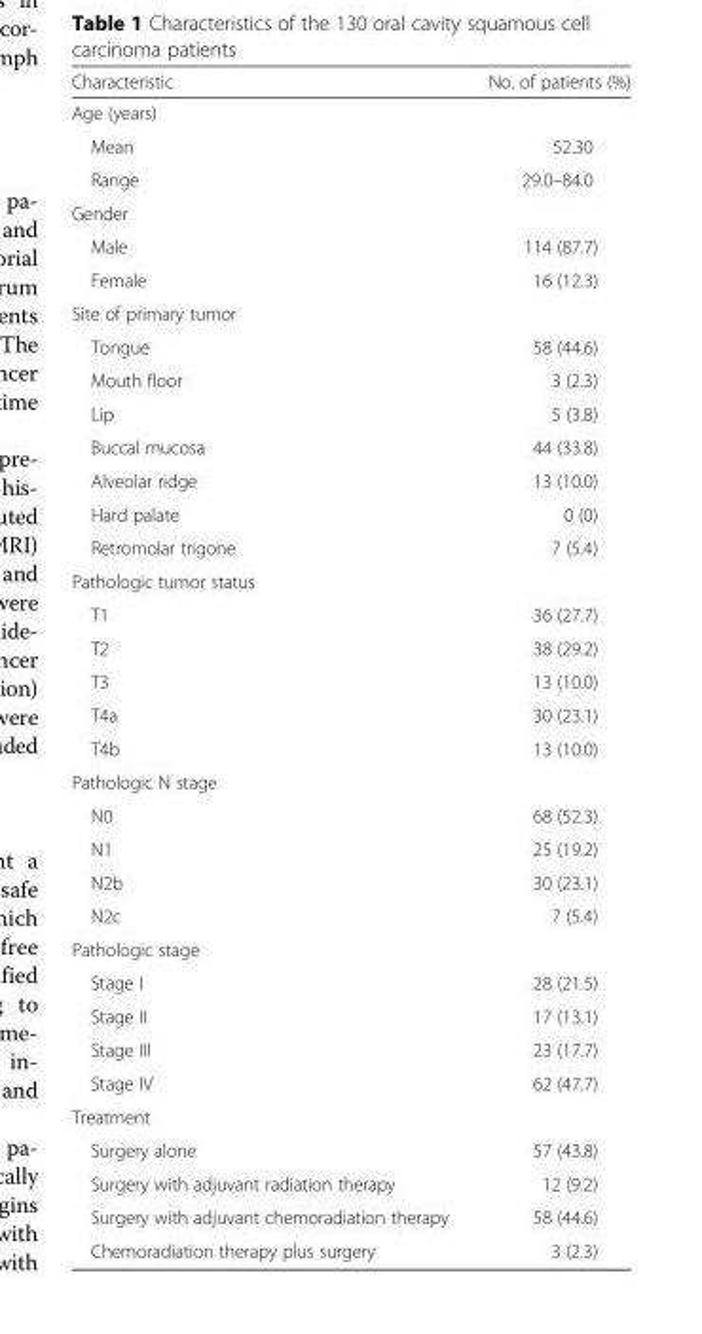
<table><thead><tr><td>Characteristic</td><td>No. of patients (%)</td></tr></thead><tbody><tr><td colspan="2">Age (years)</td></tr><tr><td>Mean</td><td>52.30</td></tr><tr><td>Range</td><td>29.0–84.0</td></tr><tr><td colspan="2">Gender</td></tr><tr><td>Male</td><td>114 (87.7)</td></tr><tr><td>Female</td><td>16 (12.3)</td></tr><tr><td colspan="2">Site of primary tumor</td></tr><tr><td>Tongue</td><td>58 (44.6)</td></tr><tr><td>Mouth floor</td><td>3 (2.3)</td></tr><tr><td>Lip</td><td>5 (3.8)</td></tr><tr><td>Buccal mucosa</td><td>44 (33.8)</td></tr><tr><td>Alveolar ridge</td><td>13 (10.0)</td></tr><tr><td>Hard palate</td><td>0 (0)</td></tr><tr><td>Retromolar trigone</td><td>7 (5.4)</td></tr><tr><td colspan="2">Pathologic tumor status</td></tr><tr><td>T1</td><td>36 (27.7)</td></tr><tr><td>T2</td><td>38 (29.2)</td></tr><tr><td>T3</td><td>13 (10.0)</td></tr><tr><td>T4a</td><td>30 (23.1)</td></tr><tr><td>T4b</td><td>13 (10.0)</td></tr><tr><td colspan="2">Pathologic N stage</td></tr><tr><td>N0</td><td>68 (52.3)</td></tr><tr><td>N1</td><td>25 (19.2)</td></tr><tr><td>N2b</td><td>30 (23.1)</td></tr><tr><td>N2c</td><td>7 (5.4)</td></tr><tr><td colspan="2">Pathologic stage</td></tr><tr><td>Stage I</td><td>28 (21.5)</td></tr><tr><td>Stage II</td><td>17 (13.1)</td></tr><tr><td>Stage III</td><td>23 (17.7)</td></tr><tr><td>Stage IV</td><td>62 (47.7)</td></tr><tr><td colspan="2">Treatment</td></tr><tr><td>Surgery alone</td><td>57 (43.8)</td></tr><tr><td>Surgery with adjuvant radiation therapy</td><td>12 (9.2)</td></tr><tr><td>Surgery with adjuvant chemoradiation therapy</td><td>58 (44.6)</td></tr><tr><td>Chemoradiation therapy plus surgery</td><td>3 (2.3)</td></tr></tbody></table>